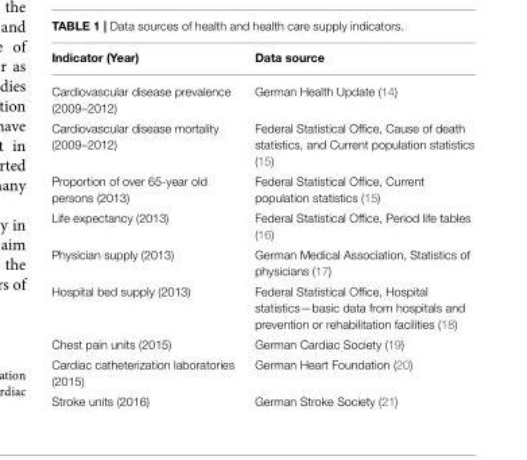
<table><thead><tr><td>Indicator (Year)</td><td>Data source</td></tr></thead><tbody><tr><td>Cardiovascular disease prevalence (2009–2012)</td><td>German Health Update (14)</td></tr><tr><td>Cardiovascular disease mortality (2009–2012)</td><td>Federal Statistical Office, Cause of death statistics, and Current population statistics (15)</td></tr><tr><td>Proportion of over 65-year old persons (2013)</td><td>Federal Statistical Office, Current population statistics (15)</td></tr><tr><td>Life expectancy (2013)</td><td>Federal Statistical Office, Period life tables (16)</td></tr><tr><td>Physician supply (2013)</td><td>German Medical Association, Statistics of physicians (17)</td></tr><tr><td>Hospital bed supply (2013)</td><td>Federal Statistical Office, Hospital statistics—basic data from hospitals and prevention or rehabilitation facilities (18)</td></tr><tr><td>Chest pain units (2015)</td><td>German Cardiac Society (19)</td></tr><tr><td>Cardiac catheterization laboratories (2015)</td><td>German Heart Foundation (20)</td></tr><tr><td>Stroke units (2016)</td><td>German Stroke Society (21)</td></tr></tbody></table>